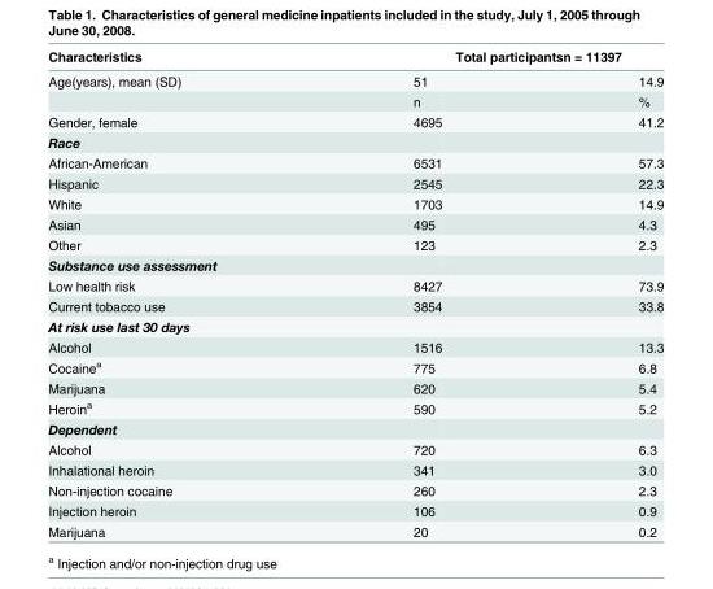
<table><thead><tr><td rowspan="2">Characteristics Age(years), mean (SD)</td><td colspan="2">Total participantsn = 11397</td></tr><tr><td>51</td><td>14.9</td></tr></thead><tbody><tr><td></td><td>n</td><td>%</td></tr><tr><td>Gender, female</td><td>4695</td><td>41.2</td></tr><tr><td colspan="3">Race</td></tr><tr><td>African-American</td><td>6531</td><td>57.3</td></tr><tr><td>Hispanic</td><td>2545</td><td>22.3</td></tr><tr><td>White</td><td>1703</td><td>14.9</td></tr><tr><td>Asian</td><td>495</td><td>4.3</td></tr><tr><td>Other</td><td>123</td><td>2.3</td></tr><tr><td colspan="3">Substance use assessment</td></tr><tr><td>Low health risk</td><td>8427</td><td>73.9</td></tr><tr><td>Current tobacco use</td><td>3854</td><td>33.8</td></tr><tr><td colspan="3">At risk use last 30 days</td></tr><tr><td>Alcohol</td><td>1516</td><td>13.3</td></tr><tr><td>Cocaine<sup>a</sup></td><td>775</td><td>6.8</td></tr><tr><td>Marijuana</td><td>620</td><td>5.4</td></tr><tr><td>Heroin<sup>a</sup></td><td>590</td><td>5.2</td></tr><tr><td colspan="3">Dependent</td></tr><tr><td>Alcohol</td><td>720</td><td>6.3</td></tr><tr><td>Inhalational heroin</td><td>341</td><td>3.0</td></tr><tr><td>Non-injection cocaine</td><td>260</td><td>2.3</td></tr><tr><td>Injection heroin</td><td>106</td><td>0.9</td></tr><tr><td>Marijuana</td><td>20</td><td>0.2</td></tr></tbody></table>